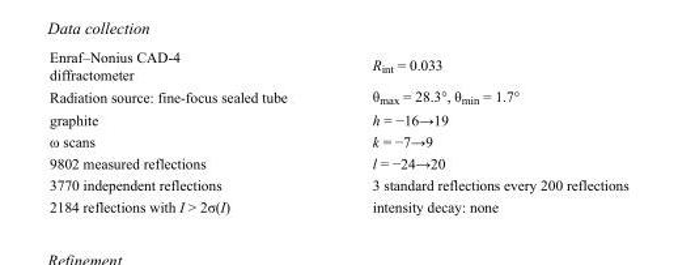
<table><tbody><tr><td>Enraf–Nonius CAD-4 diffractometer</td><td>R<sub>int</sub> = 0.033</td></tr><tr><td>Radiation source: fine-focus sealed tube</td><td>θ<sub>max</sub> = 28.3°, θ<sub>min</sub> = 1.7°</td></tr><tr><td>graphite</td><td>h = −16→19</td></tr><tr><td>ω scans</td><td>k = −7→9</td></tr><tr><td>9802 measured reflections</td><td>l = −24→20</td></tr><tr><td>3770 independent reflections</td><td>3 standard reflections every 200 reflections</td></tr><tr><td>2184 reflections with I &gt; 2σ(I)</td><td>intensity decay: none</td></tr></tbody></table>